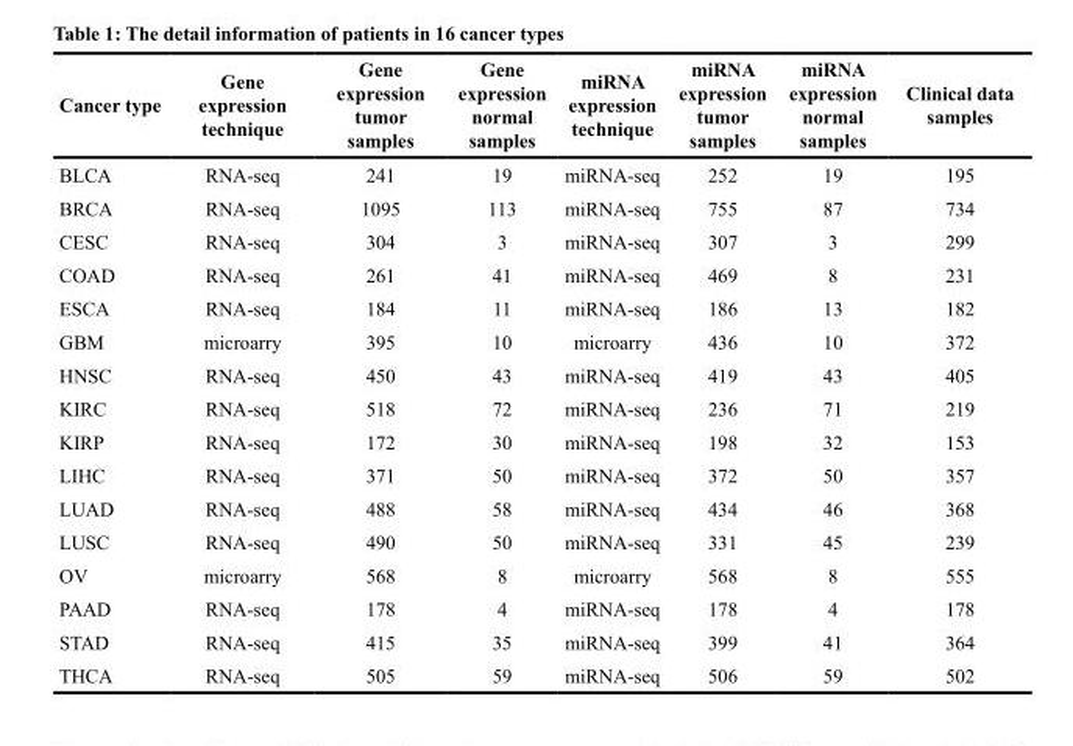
<table><thead><tr><td>Cancer type</td><td>Gene expression technique</td><td>Gene expression tumor samples</td><td>Gene expression normal samples</td><td>miRNA expression technique</td><td>miRNA expression tumor samples</td><td>miRNA expression normal samples</td><td>Clinical data samples</td></tr></thead><tbody><tr><td>BLCA</td><td>RNA-seq</td><td>241</td><td>19</td><td>miRNA-seq</td><td>252</td><td>19</td><td>195</td></tr><tr><td>BRCA</td><td>RNA-seq</td><td>1095</td><td>113</td><td>miRNA-seq</td><td>755</td><td>87</td><td>734</td></tr><tr><td>CESC</td><td>RNA-seq</td><td>304</td><td>3</td><td>miRNA-seq</td><td>307</td><td>3</td><td>299</td></tr><tr><td>COAD</td><td>RNA-seq</td><td>261</td><td>41</td><td>miRNA-seq</td><td>469</td><td>8</td><td>231</td></tr><tr><td>ESCA</td><td>RNA-seq</td><td>184</td><td>11</td><td>miRNA-seq</td><td>186</td><td>13</td><td>182</td></tr><tr><td>GBM</td><td>microarry</td><td>395</td><td>10</td><td>microarry</td><td>436</td><td>10</td><td>372</td></tr><tr><td>HNSC</td><td>RNA-seq</td><td>450</td><td>43</td><td>miRNA-seq</td><td>419</td><td>43</td><td>405</td></tr><tr><td>KIRC</td><td>RNA-seq</td><td>518</td><td>72</td><td>miRNA-seq</td><td>236</td><td>71</td><td>219</td></tr><tr><td>KIRP</td><td>RNA-seq</td><td>172</td><td>30</td><td>miRNA-seq</td><td>198</td><td>32</td><td>153</td></tr><tr><td>LIHC</td><td>RNA-seq</td><td>371</td><td>50</td><td>miRNA-seq</td><td>372</td><td>50</td><td>357</td></tr><tr><td>LUAD</td><td>RNA-seq</td><td>488</td><td>58</td><td>miRNA-seq</td><td>434</td><td>46</td><td>368</td></tr><tr><td>LUSC</td><td>RNA-seq</td><td>490</td><td>50</td><td>miRNA-seq</td><td>331</td><td>45</td><td>239</td></tr><tr><td>OV</td><td>microarry</td><td>568</td><td>8</td><td>microarry</td><td>568</td><td>8</td><td>555</td></tr><tr><td>PAAD</td><td>RNA-seq</td><td>178</td><td>4</td><td>miRNA-seq</td><td>178</td><td>4</td><td>178</td></tr><tr><td>STAD</td><td>RNA-seq</td><td>415</td><td>35</td><td>miRNA-seq</td><td>399</td><td>41</td><td>364</td></tr><tr><td>THCA</td><td>RNA-seq</td><td>505</td><td>59</td><td>miRNA-seq</td><td>506</td><td>59</td><td>502</td></tr></tbody></table>